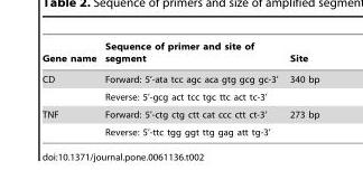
<table><thead><tr><td>Gene name</td><td>Sequence of primer and site of segment</td><td>Site</td></tr></thead><tbody><tr><td rowspan="2">CD</td><td>Forward: 5’-ata tcc agc aca gtg gcg gc-3’</td><td>340 bp</td></tr><tr><td>Reverse: 5’-gcg act tcc tgc ttc act tc-3’</td><td></td></tr><tr><td rowspan="2">TNF</td><td>Forward: 5’-ctg ctg ctt cat ccc ctt ct-3’</td><td>273 bp</td></tr><tr><td>Reverse: 5’-ttc tgg ggt ttg gag att tg-3’</td><td></td></tr></tbody></table>